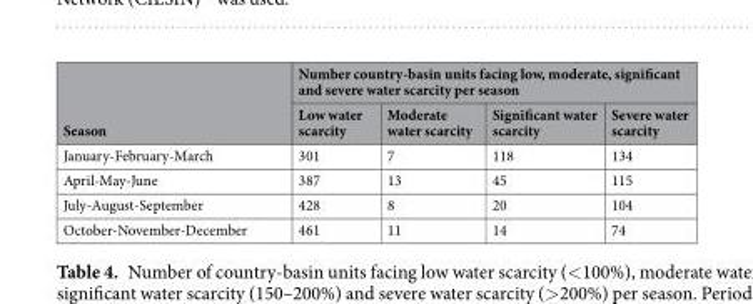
<table><thead><tr><td rowspan="2">Season</td><td colspan="4">Number country-basin units facing low, moderate, significant and severe water scarcity per season</td></tr><tr><td>Low water scarcity</td><td>Moderate water scarcity</td><td>Significant water scarcity</td><td>Severe water scarcity</td></tr></thead><tbody><tr><td>January-February-March</td><td>301</td><td>7</td><td>118</td><td>134</td></tr><tr><td>April-May-June</td><td>387</td><td>13</td><td>45</td><td>115</td></tr><tr><td>July-August-September</td><td>428</td><td>8</td><td>20</td><td>104</td></tr><tr><td>October-November-December</td><td>461</td><td>11</td><td>14</td><td>74</td></tr></tbody></table>